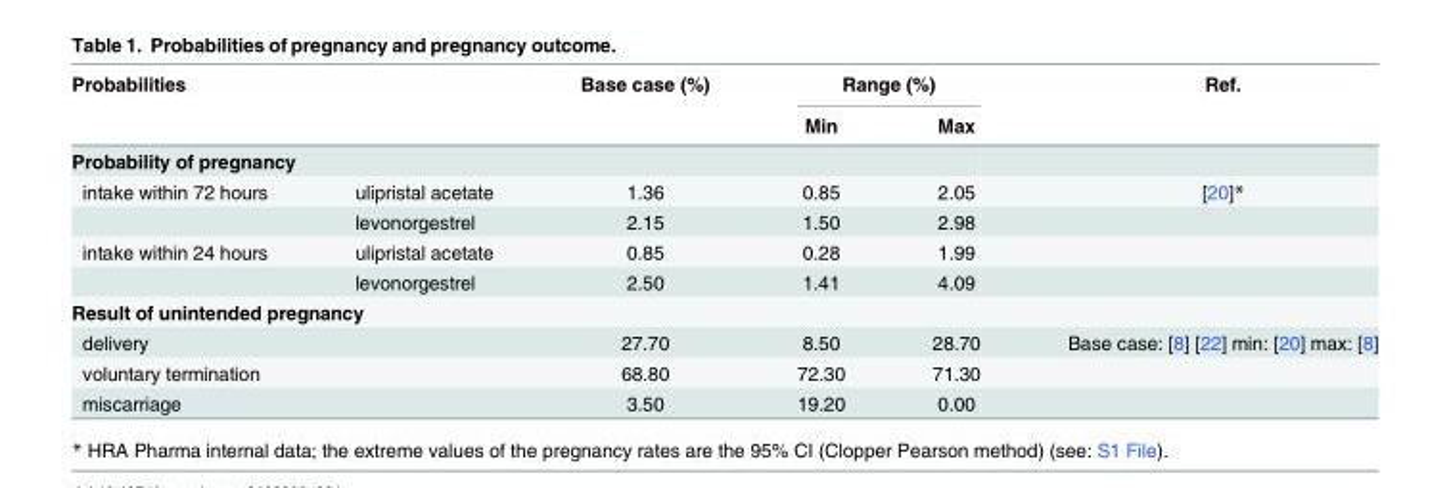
<table><thead><tr><td rowspan="2">Probabilities</td><td rowspan="2"></td><td rowspan="2">Base case (%)</td><td colspan="2">Range (%)</td><td rowspan="2">Ref.</td></tr><tr><td>Min</td><td>Max</td></tr></thead><tbody><tr><td colspan="6">Probability of pregnancy</td></tr><tr><td rowspan="2">intake within 72 hours</td><td>ulipristal acetate</td><td>1.36</td><td>0.85</td><td>2.05</td><td>[20]*</td></tr><tr><td>levonorgestrel</td><td>2.15</td><td>1.50</td><td>2.98</td><td></td></tr><tr><td rowspan="2">intake within 24 hours</td><td>ulipristal acetate</td><td>0.85</td><td>0.28</td><td>1.99</td><td></td></tr><tr><td>levonorgestrel</td><td>2.50</td><td>1.41</td><td>4.09</td><td></td></tr><tr><td colspan="6">Result of unintended pregnancy</td></tr><tr><td>delivery</td><td></td><td>27.70</td><td>8.50</td><td>28.70</td><td>Base case: [8] [22] min: [20] max: [8]</td></tr><tr><td colspan="2">voluntary termination</td><td>68.80</td><td>72.30</td><td>71.30</td><td></td></tr><tr><td>miscarriage</td><td></td><td>3.50</td><td>19.20</td><td>0.00</td><td></td></tr></tbody></table>